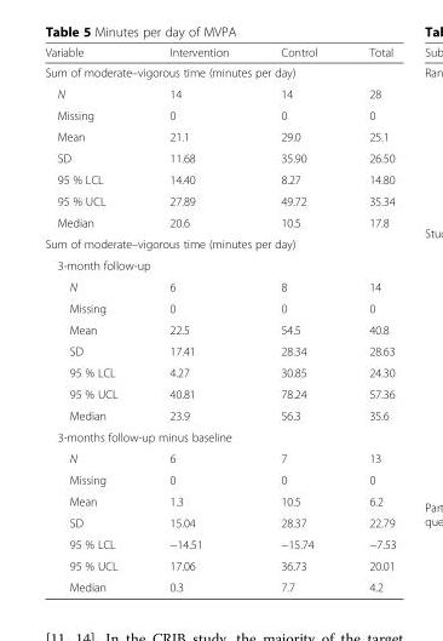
<table><thead><tr><td>Variable</td><td>Intervention</td><td>Control</td><td>Total</td></tr></thead><tbody><tr><td colspan="4">Sum of moderate–vigorous time (minutes per day)</td></tr><tr><td>N</td><td>14</td><td>14</td><td>28</td></tr><tr><td>Missing</td><td>0</td><td>0</td><td>0</td></tr><tr><td>Mean</td><td>21.1</td><td>29.0</td><td>25.1</td></tr><tr><td>SD</td><td>11.68</td><td>35.90</td><td>26.50</td></tr><tr><td>95 % LCL</td><td>14.40</td><td>8.27</td><td>14.80</td></tr><tr><td>95 % UCL</td><td>27.89</td><td>49.72</td><td>35.34</td></tr><tr><td>Median</td><td>20.6</td><td>10.5</td><td>17.8</td></tr><tr><td colspan="4">Sum of moderate–vigorous time (minutes per day)</td></tr><tr><td colspan="4">3-month follow-up</td></tr><tr><td>N</td><td>6</td><td>8</td><td>14</td></tr><tr><td>Missing</td><td>0</td><td>0</td><td>0</td></tr><tr><td>Mean</td><td>22.5</td><td>54.5</td><td>40.8</td></tr><tr><td>SD</td><td>17.41</td><td>28.34</td><td>28.63</td></tr><tr><td>95 % LCL</td><td>4.27</td><td>30.85</td><td>24.30</td></tr><tr><td>95 % UCL</td><td>40.81</td><td>78.24</td><td>57.36</td></tr><tr><td>Median</td><td>23.9</td><td>56.3</td><td>35.6</td></tr><tr><td colspan="4">3-months follow-up minus baseline</td></tr><tr><td>N</td><td>6</td><td>7</td><td>13</td></tr><tr><td>Missing</td><td>0</td><td>0</td><td>0</td></tr><tr><td>Mean</td><td>1.3</td><td>10.5</td><td>6.2</td></tr><tr><td>SD</td><td>15.04</td><td>28.37</td><td>22.79</td></tr><tr><td>95 % LCL</td><td>−14.51</td><td>−15.74</td><td>−7.53</td></tr><tr><td>95 % UCL</td><td>17.06</td><td>36.73</td><td>20.01</td></tr><tr><td>Median</td><td>0.3</td><td>7.7</td><td>4.2</td></tr></tbody></table>